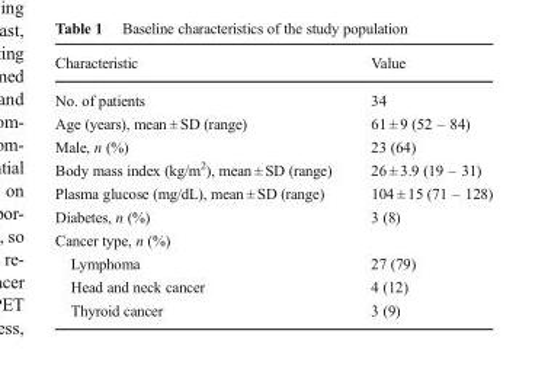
<table><thead><tr><td>Characteristic</td><td>Value</td></tr></thead><tbody><tr><td>No. of patients</td><td>34</td></tr><tr><td>Age (years), mean ± SD (range)</td><td>61 ± 9 (52 – 84)</td></tr><tr><td>Male, n (%)</td><td>23 (64)</td></tr><tr><td>Body mass index (kg/m<sup>2</sup>), mean ± SD (range)</td><td>26 ± 3.9 (19 – 31)</td></tr><tr><td>Plasma glucose (mg/dL), mean ± SD (range)</td><td>104 ± 15 (71 – 128)</td></tr><tr><td>Diabetes, n (%)</td><td>3 (8)</td></tr><tr><td colspan="2">Cancer type, n (%)</td></tr><tr><td>Lymphoma</td><td>27 (79)</td></tr><tr><td>Head and neck cancer</td><td>4 (12)</td></tr><tr><td>Thyroid cancer</td><td>3 (9)</td></tr></tbody></table>